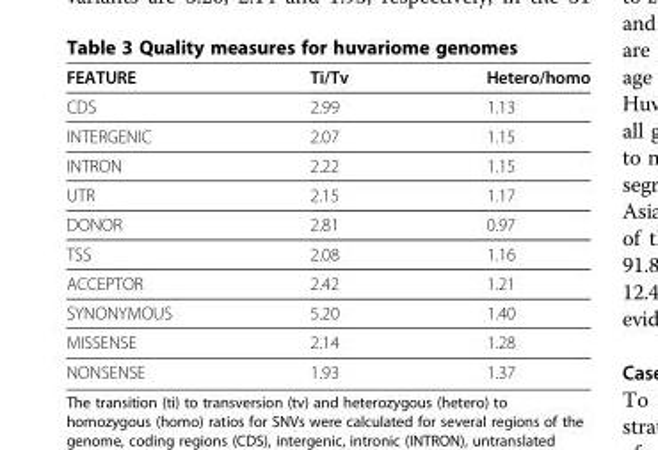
<table><thead><tr><td>FEATURE</td><td>Ti/Tv</td><td>Hetero/homo</td></tr></thead><tbody><tr><td>CDS</td><td>2.99</td><td>1.13</td></tr><tr><td>INTERGENIC</td><td>2.07</td><td>1.15</td></tr><tr><td>INTRON</td><td>2.22</td><td>1.15</td></tr><tr><td>UTR</td><td>2.15</td><td>1.17</td></tr><tr><td>DONOR</td><td>2.81</td><td>0.97</td></tr><tr><td>TSS</td><td>2.08</td><td>1.16</td></tr><tr><td>ACCEPTOR</td><td>2.42</td><td>1.21</td></tr><tr><td>SYNONYMOUS</td><td>5.20</td><td>1.40</td></tr><tr><td>MISSENSE</td><td>2.14</td><td>1.28</td></tr><tr><td>NONSENSE</td><td>1.93</td><td>1.37</td></tr></tbody></table>